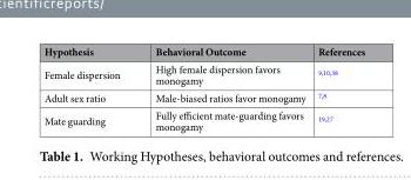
<table><thead><tr><td>Hypothesis</td><td>Behavioral Outcome</td><td>References</td></tr></thead><tbody><tr><td>Female dispersion</td><td>High female dispersion favors monogamy</td><td><sup>9,10,38</sup></td></tr><tr><td>Adult sex ratio</td><td>Male-biased ratios favor monogamy</td><td><sup>7,8</sup></td></tr><tr><td>Mate guarding</td><td>Fully efficient mate-guarding favors monogamy</td><td><sup>19,27</sup></td></tr></tbody></table>